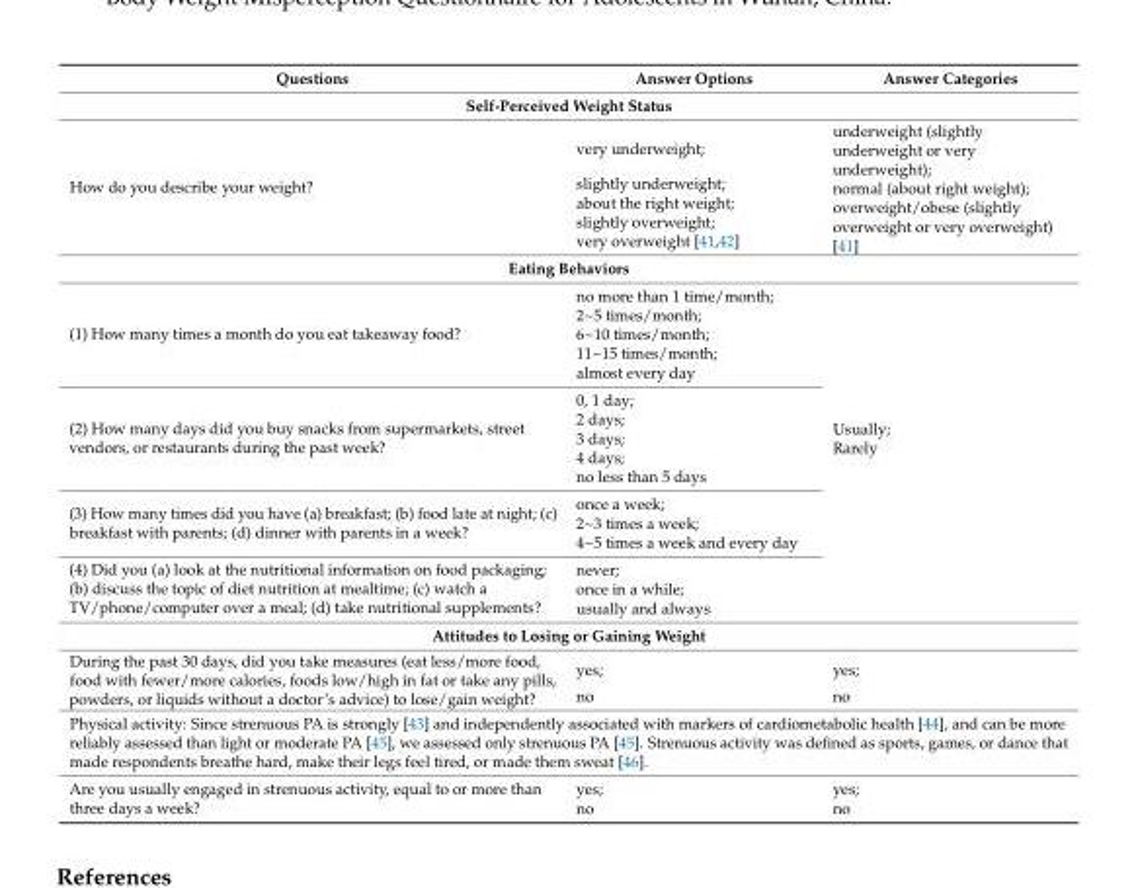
<table><thead><tr><td>Questions</td><td>Answer Options</td><td>Answer Categories</td></tr></thead><tbody><tr><td colspan="3">Self-Perceived Weight Status</td></tr><tr><td rowspan="5">How do you describe your weight?</td><td>very underweight;</td><td rowspan="5">underweight (slightly underweight or very underweight); normal (about right weight); overweight/obese (slightly overweight or very overweight) [41]</td></tr><tr><td>slightly underweight;</td></tr><tr><td>about the right weight;</td></tr><tr><td>slightly overweight;</td></tr><tr><td>very overweight [41,42]</td></tr><tr><td colspan="3">Eating Behaviors</td></tr><tr><td rowspan="5">(1) How many times a month do you eat takeaway food?</td><td>no more than 1 time/month;</td><td rowspan="16">Usually; Rarely</td></tr><tr><td>2~5 times/month;</td></tr><tr><td>6~10 times/month;</td></tr><tr><td>11~15 times/month;</td></tr><tr><td>almost every day</td></tr><tr><td rowspan="5">(2) How many days did you buy snacks from supermarkets, street vendors, or restaurants during the past week?</td><td>0, 1 day;</td></tr><tr><td>2 days;</td></tr><tr><td>3 days;</td></tr><tr><td>4 days;</td></tr><tr><td>no less than 5 days</td></tr><tr><td rowspan="3">(3) How many times did you have (a) breakfast; (b) food late at night; (c) breakfast with parents; (d) dinner with parents in a week?</td><td>once a week;</td></tr><tr><td>2~3 times a week;</td></tr><tr><td>4~5 times a week and every day</td></tr><tr><td rowspan="3">(4) Did you (a) look at the nutritional information on food packaging; (b) discuss the topic of diet nutrition at mealtime; (c) watch a TV/phone/computer over a meal; (d) take nutritional supplements?</td><td>never;</td></tr><tr><td>once in a while;</td></tr><tr><td>usually and always</td></tr><tr><td colspan="3">Attitudes to Losing or Gaining Weight</td></tr><tr><td rowspan="2">During the past 30 days, did you take measures (eat less/more food, food with fewer/more calories, foods low/high in fat or take any pills, powders, or liquids without a doctor’s advice) to lose/gain weight?</td><td>yes;</td><td>yes;</td></tr><tr><td>no</td><td>no</td></tr><tr><td colspan="3">Physical activity: Since strenuous PA is strongly [43] and independently associated with markers of cardiometabolic health [44], and can be more reliably assessed than light or moderate PA [45], we assessed only strenuous PA [45]. Strenuous activity was defined as sports, games, or dance that made respondents breathe hard, make their legs feel tired, or made them sweat [46].</td></tr><tr><td rowspan="2">Are you usually engaged in strenuous activity, equal to or more than three days a week?</td><td>yes;</td><td>yes;</td></tr><tr><td>no</td><td>no</td></tr></tbody></table>